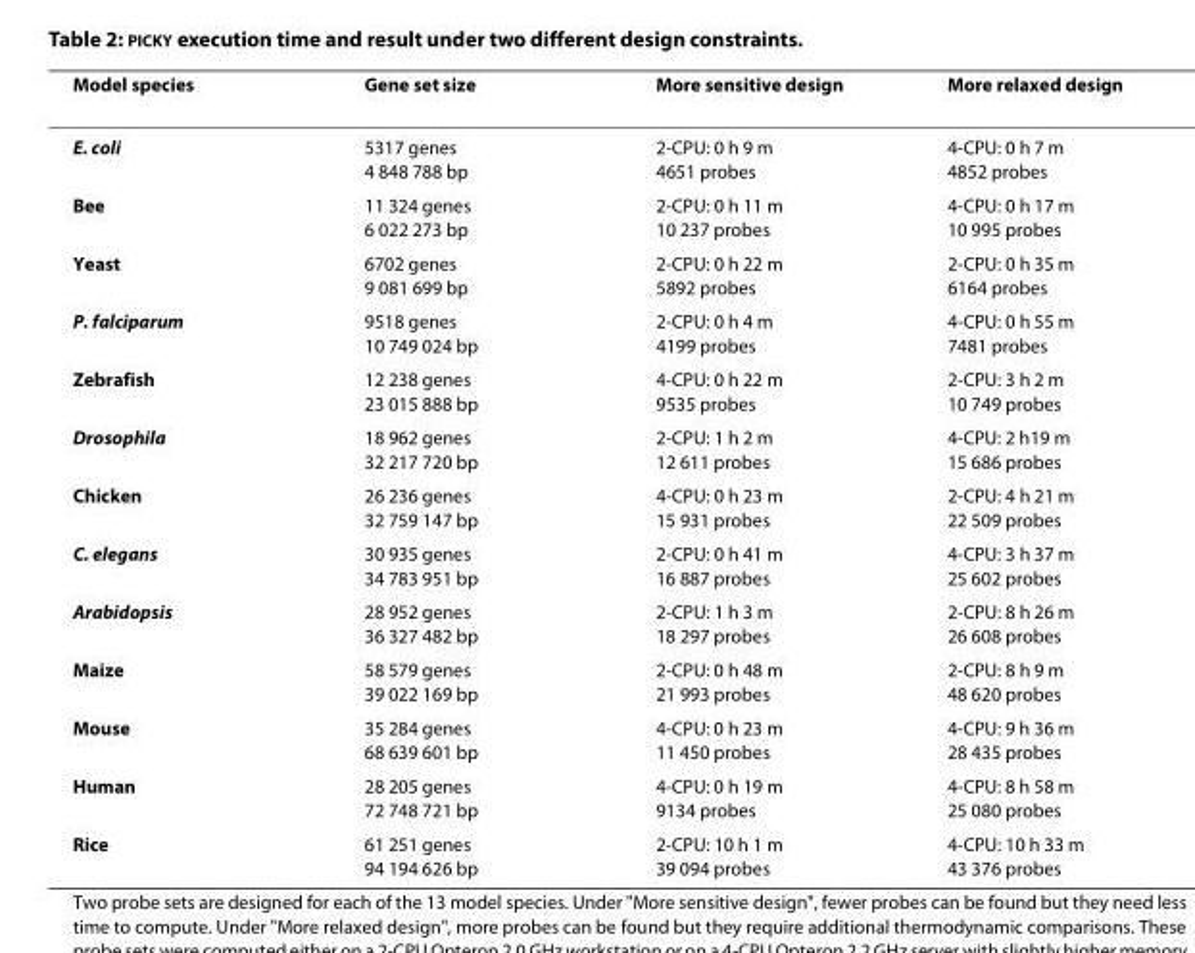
<table><thead><tr><td>Model species</td><td>Gene set size</td><td>More sensitive design</td><td>More relaxed design</td></tr></thead><tbody><tr><td>E. coli</td><td>5317 genes 4 848 788 bp</td><td>2-CPU: 0 h 9 m 4651 probes</td><td>4-CPU: 0 h 7 m 4852 probes</td></tr><tr><td>Bee</td><td>11 324 genes 6 022 273 bp</td><td>2-CPU: 0 h 11 m 10 237 probes</td><td>4-CPU: 0 h 17 m 10 995 probes</td></tr><tr><td>Yeast</td><td>6702 genes 9 081 699 bp</td><td>2-CPU: 0 h 22 m 5892 probes</td><td>2-CPU: 0 h 35 m 6164 probes</td></tr><tr><td>P. falciparum</td><td>9518 genes 10 749 024 bp</td><td>2-CPU: 0 h 4 m 4199 probes</td><td>4-CPU: 0 h 55 m 7481 probes</td></tr><tr><td>Zebrafish</td><td>12 238 genes 23 015 888 bp</td><td>4-CPU: 0 h 22 m 9535 probes</td><td>2-CPU: 3 h 2 m 10 749 probes</td></tr><tr><td>Drosophila</td><td>18 962 genes 32 217 720 bp</td><td>2-CPU: 1 h 2 m 12 611 probes</td><td>4-CPU: 2 h19 m 15 686 probes</td></tr><tr><td>Chicken</td><td>26 236 genes 32 759 147 bp</td><td>4-CPU: 0 h 23 m 15 931 probes</td><td>2-CPU: 4 h 21 m 22 509 probes</td></tr><tr><td>C. elegans</td><td>30 935 genes 34 783 951 bp</td><td>2-CPU: 0 h 41 m 16 887 probes</td><td>4-CPU: 3 h 37 m 25 602 probes</td></tr><tr><td>Arabidopsis</td><td>28 952 genes 36 327 482 bp</td><td>2-CPU: 1 h 3 m 18 297 probes</td><td>2-CPU: 8 h 26 m 26 608 probes</td></tr><tr><td>Maize</td><td>58 579 genes 39 022 169 bp</td><td>2-CPU: 0 h 48 m 21 993 probes</td><td>2-CPU: 8 h 9 m 48 620 probes</td></tr><tr><td>Mouse</td><td>35 284 genes 68 639 601 bp</td><td>4-CPU: 0 h 23 m 11 450 probes</td><td>4-CPU: 9 h 36 m 28 435 probes</td></tr><tr><td>Human</td><td>28 205 genes 72 748 721 bp</td><td>4-CPU: 0 h 19 m 9134 probes</td><td>4-CPU: 8 h 58 m 25 080 probes</td></tr><tr><td>Rice</td><td>61 251 genes 94 194 626 bp</td><td>2-CPU: 10 h 1 m 39 094 probes</td><td>4-CPU: 10 h 33 m 43 376 probes</td></tr></tbody></table>